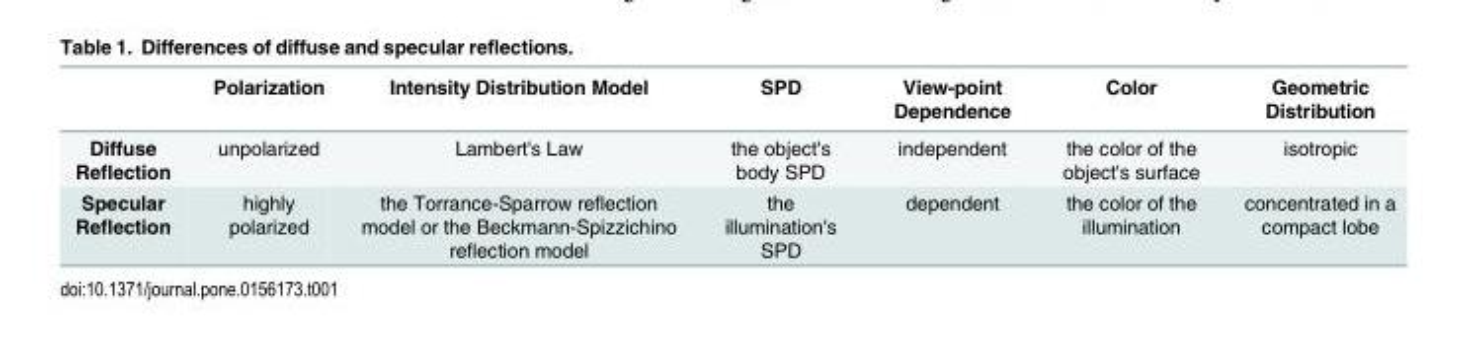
<table><thead><tr><td></td><td>Polarization</td><td>Intensity Distribution Model</td><td>SPD</td><td>View-point Dependence</td><td>Color</td><td>Geometric Distribution</td></tr></thead><tbody><tr><td>Diffuse Reflection</td><td>unpolarized</td><td>Lambert&#x27;s Law</td><td>the object&#x27;s body SPD</td><td>independent</td><td>the color of the object&#x27;s surface</td><td>isotropic</td></tr><tr><td>Specular Reflection</td><td>highly polarized</td><td>the Torrance-Sparrow reflection model or the Beckmann-Spizzichino reflection model</td><td>the illumination&#x27;s SPD</td><td>dependent</td><td>the color of the illumination</td><td>concentrated in a compact lobe</td></tr></tbody></table>